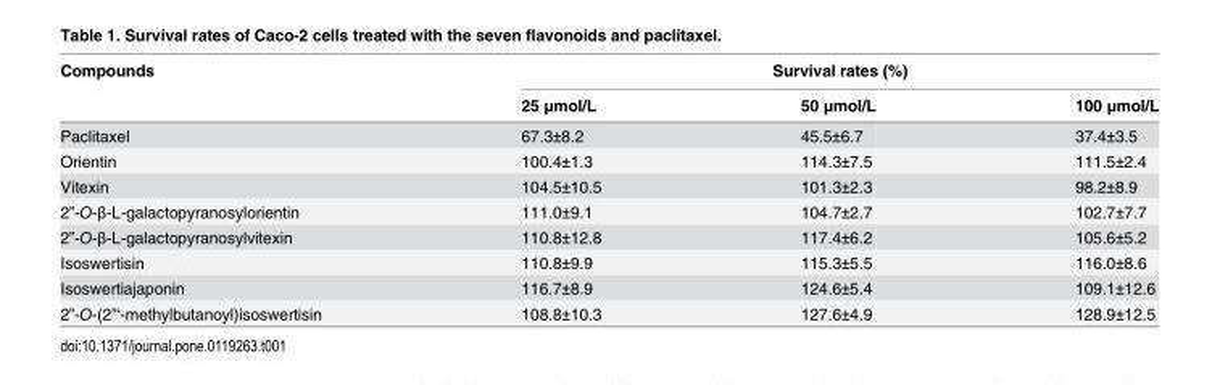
<table><thead><tr><td rowspan="2">Compounds</td><td colspan="3">Survival rates (%)</td></tr><tr><td>25 μmol/L</td><td>50 μmol/L</td><td>100 μmol/L</td></tr></thead><tbody><tr><td>Paclitaxel</td><td>67.3±8.2</td><td>45.5±6.7</td><td>37.4±3.5</td></tr><tr><td>Orientin</td><td>100.4±1.3</td><td>114.3±7.5</td><td>111.5±2.4</td></tr><tr><td>Vitexin</td><td>104.5±10.5</td><td>101.3±2.3</td><td>98.2±8.9</td></tr><tr><td>2”-O-β-L-galactopyranosylorientin</td><td>111.0±9.1</td><td>104.7±2.7</td><td>102.7±7.7</td></tr><tr><td>2”-O-β-L-galactopyranosylvitexin</td><td>110.8±12.8</td><td>117.4±6.2</td><td>105.6±5.2</td></tr><tr><td>Isoswertisin</td><td>110.8±9.9</td><td>115.3±5.5</td><td>116.0±8.6</td></tr><tr><td>Isoswertiajaponin</td><td>116.7±8.9</td><td>124.6±5.4</td><td>109.1±12.6</td></tr><tr><td>2”-O-(2”‘-methylbutanoyl)isoswertisin</td><td>108.8±10.3</td><td>127.6±4.9</td><td>128.9±12.5</td></tr></tbody></table>